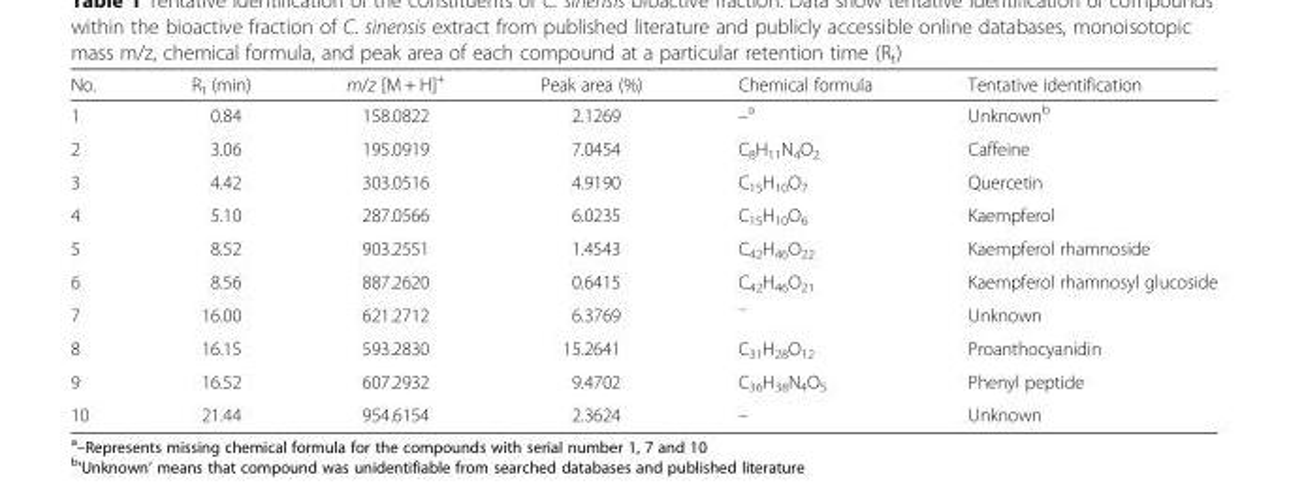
<table><thead><tr><td>No.</td><td>R<sub>t</sub> (min)</td><td>m/z [M + H]<sup>+</sup></td><td>Peak area (%)</td><td>Chemical formula</td><td>Tentative identification</td></tr></thead><tbody><tr><td>1</td><td>0.84</td><td>158.0822</td><td>2.1269</td><td>–<sup>a</sup></td><td>Unknown<sup>b</sup></td></tr><tr><td>2</td><td>3.06</td><td>195.0919</td><td>7.0454</td><td>C<sub>8</sub>H<sub>11</sub>N<sub>4</sub>O<sub>2</sub></td><td>Caffeine</td></tr><tr><td>3</td><td>4.42</td><td>303.0516</td><td>4.9190</td><td>C<sub>15</sub>H<sub>10</sub>O<sub>7</sub></td><td>Quercetin</td></tr><tr><td>4</td><td>5.10</td><td>287.0566</td><td>6.0235</td><td>C<sub>15</sub>H<sub>10</sub>O<sub>6</sub></td><td>Kaempferol</td></tr><tr><td>5</td><td>8.52</td><td>903.2551</td><td>1.4543</td><td>C<sub>42</sub>H<sub>46</sub>O<sub>22</sub></td><td>Kaempferol rhamnoside</td></tr><tr><td>6</td><td>8.56</td><td>887.2620</td><td>0.6415</td><td>C<sub>42</sub>H<sub>46</sub>O<sub>21</sub></td><td>Kaempferol rhamnosyl glucoside</td></tr><tr><td>7</td><td>16.00</td><td>621.2712</td><td>6.3769</td><td><sup>−</sup></td><td>Unknown</td></tr><tr><td>8</td><td>16.15</td><td>593.2830</td><td>15.2641</td><td>C<sub>31</sub>H<sub>28</sub>O<sub>12</sub></td><td>Proanthocyanidin</td></tr><tr><td>9</td><td>16.52</td><td>607.2932</td><td>9.4702</td><td>C<sub>36</sub>H<sub>38</sub>N<sub>4</sub>O<sub>5</sub></td><td>Phenyl peptide</td></tr><tr><td>10</td><td>21.44</td><td>954.6154</td><td>2.3624</td><td>–</td><td>Unknown</td></tr></tbody></table>